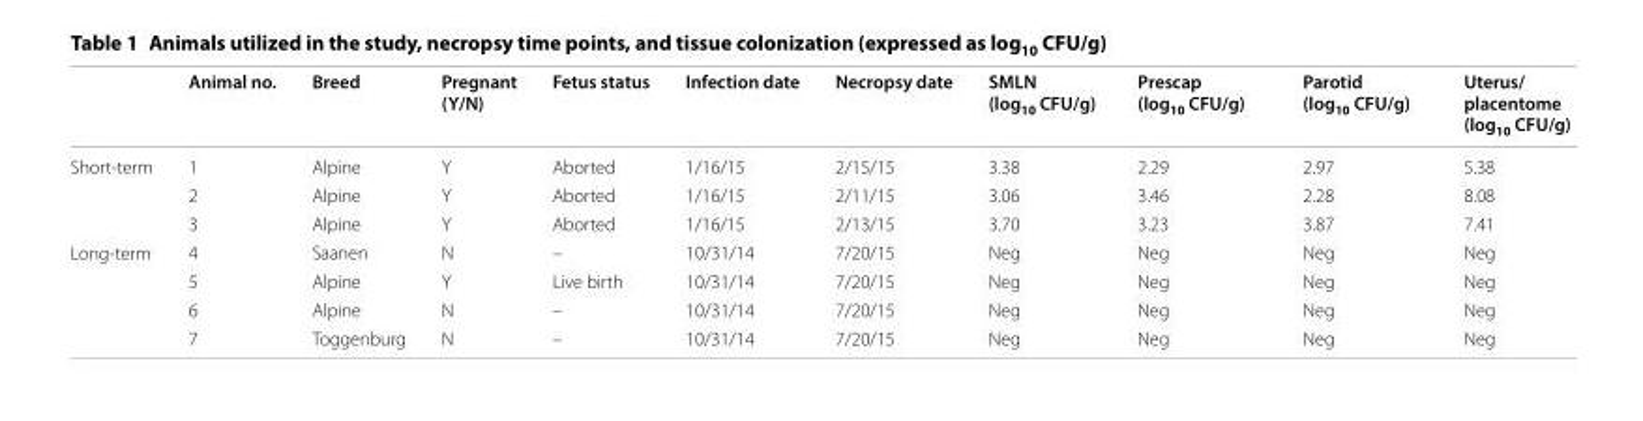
<table><thead><tr><td></td><td>Animal no.</td><td>Breed</td><td>Pregnant (Y/N)</td><td>Fetus status</td><td>Infection date</td><td>Necropsy date</td><td>SMLN (log<sub>10</sub> CFU/g)</td><td>Prescap (log<sub>10</sub> CFU/g)</td><td>Parotid (log<sub>10</sub> CFU/g)</td><td>Uterus/ placentome (log<sub>10</sub> CFU/g)</td></tr></thead><tbody><tr><td rowspan="3">Short-term</td><td>1</td><td>Alpine</td><td>Y</td><td>Aborted</td><td>1/16/15</td><td>2/15/15</td><td>3.38</td><td>2.29</td><td>2.97</td><td>5.38</td></tr><tr><td>2</td><td>Alpine</td><td>Y</td><td>Aborted</td><td>1/16/15</td><td>2/11/15</td><td>3.06</td><td>3.46</td><td>2.28</td><td>8.08</td></tr><tr><td>3</td><td>Alpine</td><td>Y</td><td>Aborted</td><td>1/16/15</td><td>2/13/15</td><td>3.70</td><td>3.23</td><td>3.87</td><td>7.41</td></tr><tr><td rowspan="4">Long-term</td><td>4</td><td>Saanen</td><td>N</td><td>–</td><td>10/31/14</td><td>7/20/15</td><td>Neg</td><td>Neg</td><td>Neg</td><td>Neg</td></tr><tr><td>5</td><td>Alpine</td><td>Y</td><td>Live birth</td><td>10/31/14</td><td>7/20/15</td><td>Neg</td><td>Neg</td><td>Neg</td><td>Neg</td></tr><tr><td>6</td><td>Alpine</td><td>N</td><td>–</td><td>10/31/14</td><td>7/20/15</td><td>Neg</td><td>Neg</td><td>Neg</td><td>Neg</td></tr><tr><td>7</td><td>Toggenburg</td><td>N</td><td>–</td><td>10/31/14</td><td>7/20/15</td><td>Neg</td><td>Neg</td><td>Neg</td><td>Neg</td></tr></tbody></table>